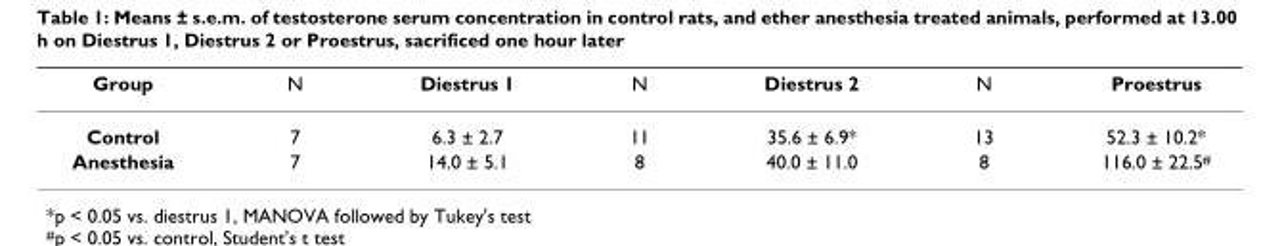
<table><thead><tr><td>Group</td><td>N</td><td>Diestrus 1</td><td>N</td><td>Diestrus 2</td><td>N</td><td>Proestrus</td></tr></thead><tbody><tr><td>Control</td><td>7</td><td>6.3 ± 2.7</td><td>11</td><td>35.6 ± 6.9*</td><td>13</td><td>52.3 ± 10.2*</td></tr><tr><td>Anesthesia</td><td>7</td><td>14.0 ± 5.1</td><td>8</td><td>40.0 ± 11.0</td><td>8</td><td>116.0 ± 22.5<sup>#</sup></td></tr></tbody></table>